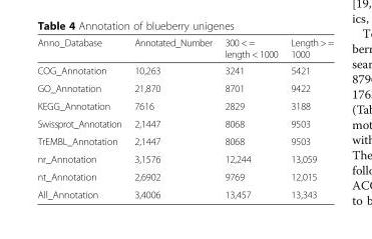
<table><thead><tr><td>Anno_Database</td><td>Annotated_Number</td><td>300 &lt; = length &lt; 1000</td><td>Length &gt; = 1000</td></tr></thead><tbody><tr><td>COG_Annotation</td><td>10,263</td><td>3241</td><td>5421</td></tr><tr><td>GO_Annotation</td><td>21,870</td><td>8701</td><td>9422</td></tr><tr><td>KEGG_Annotation</td><td>7616</td><td>2829</td><td>3188</td></tr><tr><td>Swissprot_Annotation</td><td>2,1447</td><td>8068</td><td>9503</td></tr><tr><td>TrEMBL_Annotation</td><td>2,1447</td><td>8068</td><td>9503</td></tr><tr><td>nr_Annotation</td><td>3,1576</td><td>12,244</td><td>13,059</td></tr><tr><td>nt_Annotation</td><td>2,6902</td><td>9769</td><td>12,015</td></tr><tr><td>All_Annotation</td><td>3,4006</td><td>13,457</td><td>13,343</td></tr></tbody></table>